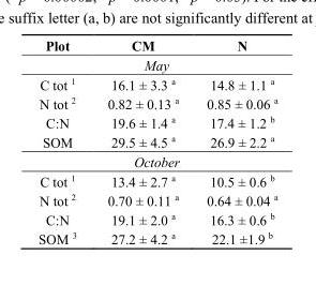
<table><thead><tr><td>Plot</td><td>CM</td><td>N</td></tr></thead><tbody><tr><td colspan="3">May</td></tr><tr><td>C tot <sup>1</sup></td><td>16.1 ± 3.3 <sup>a</sup></td><td>14.8 ± 1.1 <sup>a</sup></td></tr><tr><td>N tot <sup>2</sup></td><td>0.82 ± 0.13 <sup>a</sup></td><td>0.85 ± 0.06 <sup>a</sup></td></tr><tr><td>C:N</td><td>19.6 ± 1.4 <sup>a</sup></td><td>17.4 ± 1.2 <sup>b</sup></td></tr><tr><td>SOM</td><td>29.5 ± 4.5 <sup>a</sup></td><td>26.9 ± 2.2 <sup>a</sup></td></tr><tr><td colspan="3">October</td></tr><tr><td>C tot <sup>1</sup></td><td>13.4 ± 2.7 <sup>a</sup></td><td>10.5 ± 0.6 <sup>b</sup></td></tr><tr><td>N tot <sup>2</sup></td><td>0.70 ± 0.11 <sup>a</sup></td><td>0.64 ± 0.04 <sup>a</sup></td></tr><tr><td>C:N</td><td>19.1 ± 2.0 <sup>a</sup></td><td>16.3 ± 0.6 <sup>b</sup></td></tr><tr><td>SOM <sup>3</sup></td><td>27.2 ± 4.2 <sup>a</sup></td><td>22.1 ±1.9 <sup>b</sup></td></tr></tbody></table>